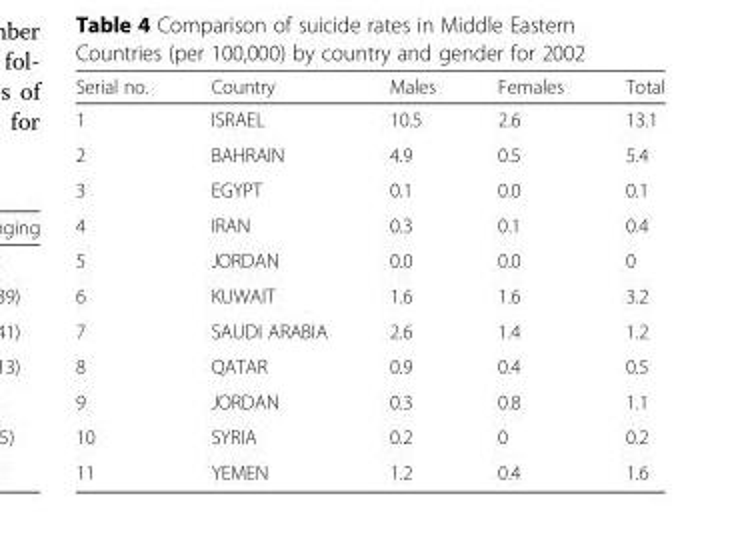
<table><thead><tr><td>Serial no.</td><td>Country</td><td>Males</td><td>Females</td><td>Total</td></tr></thead><tbody><tr><td>1</td><td>ISRAEL</td><td>10.5</td><td>2.6</td><td>13.1</td></tr><tr><td>2</td><td>BAHRAIN</td><td>4.9</td><td>0.5</td><td>5.4</td></tr><tr><td>3</td><td>EGYPT</td><td>0.1</td><td>0.0</td><td>0.1</td></tr><tr><td>4</td><td>IRAN</td><td>0.3</td><td>0.1</td><td>0.4</td></tr><tr><td>5</td><td>JORDAN</td><td>0.0</td><td>0.0</td><td>0</td></tr><tr><td>6</td><td>KUWAIT</td><td>1.6</td><td>1.6</td><td>3.2</td></tr><tr><td>7</td><td>SAUDI ARABIA</td><td>2.6</td><td>1.4</td><td>1.2</td></tr><tr><td>8</td><td>QATAR</td><td>0.9</td><td>0.4</td><td>0.5</td></tr><tr><td>9</td><td>JORDAN</td><td>0.3</td><td>0.8</td><td>1.1</td></tr><tr><td>10</td><td>SYRIA</td><td>0.2</td><td>0</td><td>0.2</td></tr><tr><td>11</td><td>YEMEN</td><td>1.2</td><td>0.4</td><td>1.6</td></tr></tbody></table>